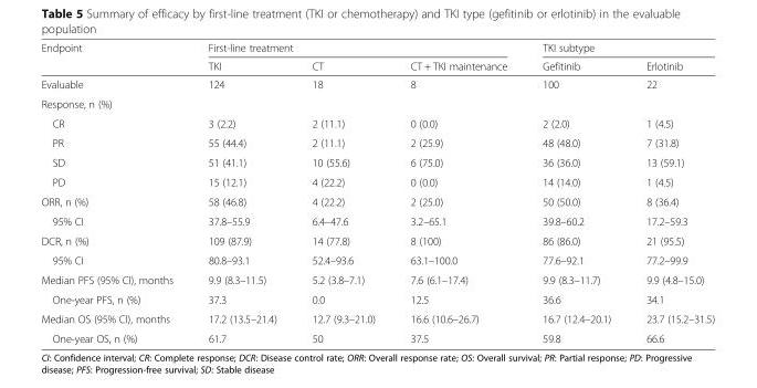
<table><thead><tr><td rowspan="2">Endpoint</td><td colspan="3">First-line treatment</td><td colspan="2">TKI subtype</td></tr><tr><td>TKI</td><td>CT</td><td>CT + TKI maintenance</td><td>Gefitinib</td><td>Erlotinib</td></tr></thead><tbody><tr><td>Evaluable</td><td>124</td><td>18</td><td>8</td><td>100</td><td>22</td></tr><tr><td colspan="6">Response, n (%)</td></tr><tr><td>CR</td><td>3 (2.2)</td><td>2 (11.1)</td><td>0 (0.0)</td><td>2 (2.0)</td><td>1 (4.5)</td></tr><tr><td>PR</td><td>55 (44.4)</td><td>2 (11.1)</td><td>2 (25.9)</td><td>48 (48.0)</td><td>7 (31.8)</td></tr><tr><td>SD</td><td>51 (41.1)</td><td>10 (55.6)</td><td>6 (75.0)</td><td>36 (36.0)</td><td>13 (59.1)</td></tr><tr><td>PD</td><td>15 (12.1)</td><td>4 (22.2)</td><td>0 (0.0)</td><td>14 (14.0)</td><td>1 (4.5)</td></tr><tr><td>ORR, n (%)</td><td>58 (46.8)</td><td>4 (22.2)</td><td>2 (25.0)</td><td>50 (50.0)</td><td>8 (36.4)</td></tr><tr><td>95% CI</td><td>37.8–55.9</td><td>6.4–47.6</td><td>3.2–65.1</td><td>39.8–60.2</td><td>17.2–59.3</td></tr><tr><td>DCR, n (%)</td><td>109 (87.9)</td><td>14 (77.8)</td><td>8 (100)</td><td>86 (86.0)</td><td>21 (95.5)</td></tr><tr><td>95% CI</td><td>80.8–93.1</td><td>52.4–93.6</td><td>63.1–100.0</td><td>77.6–92.1</td><td>77.2–99.9</td></tr><tr><td>Median PFS (95% CI), months</td><td>9.9 (8.3–11.5)</td><td>5.2 (3.8–7.1)</td><td>7.6 (6.1–17.4)</td><td>9.9 (8.3–11.7)</td><td>9.9 (4.8–15.0)</td></tr><tr><td>One-year PFS, n (%)</td><td>37.3</td><td>0.0</td><td>12.5</td><td>36.6</td><td>34.1</td></tr><tr><td>Median OS (95% CI), months</td><td>17.2 (13.5–21.4)</td><td>12.7 (9.3–21.0)</td><td>16.6 (10.6–26.7)</td><td>16.7 (12.4–20.1)</td><td>23.7 (15.2–31.5)</td></tr><tr><td>One-year OS, n (%)</td><td>61.7</td><td>50</td><td>37.5</td><td>59.8</td><td>66.6</td></tr></tbody></table>